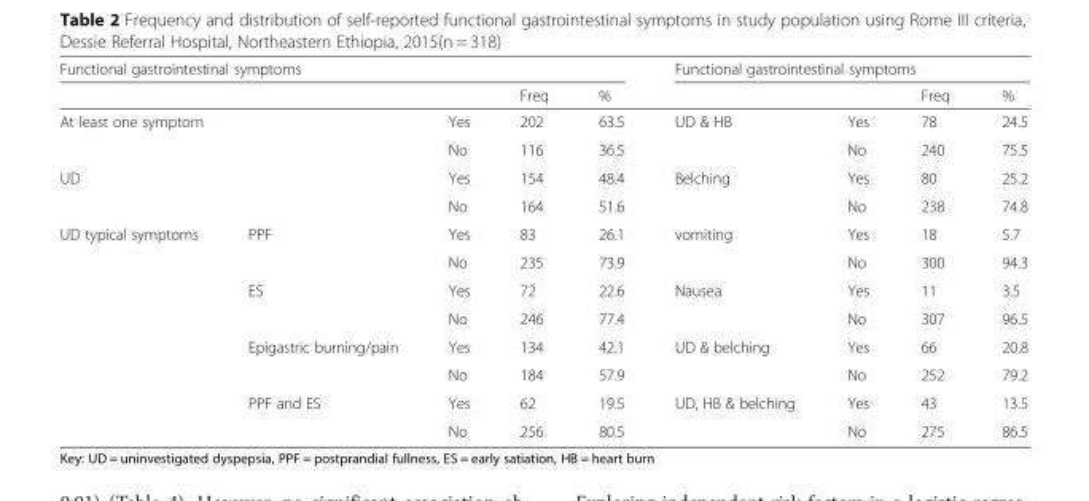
<table><thead><tr><td colspan="5">Functional gastrointestinal symptoms</td><td colspan="4">Functional gastrointestinal symptoms</td></tr><tr><td></td><td></td><td></td><td>Freq</td><td>%</td><td></td><td></td><td>Freq</td><td>%</td></tr></thead><tbody><tr><td rowspan="2" colspan="2">At least one symptom</td><td>Yes</td><td>202</td><td>63.5</td><td rowspan="2">UD &amp; HB</td><td>Yes</td><td>78</td><td>24.5</td></tr><tr><td>No</td><td>116</td><td>36.5</td><td>No</td><td>240</td><td>75.5</td></tr><tr><td rowspan="2" colspan="2">UD</td><td>Yes</td><td>154</td><td>48.4</td><td rowspan="2">Belching</td><td>Yes</td><td>80</td><td>25.2</td></tr><tr><td>No</td><td>164</td><td>51.6</td><td>No</td><td>238</td><td>74.8</td></tr><tr><td rowspan="8">UD typical symptoms</td><td rowspan="2">PPF</td><td>Yes</td><td>83</td><td>26.1</td><td rowspan="2">vomiting</td><td>Yes</td><td>18</td><td>5.7</td></tr><tr><td>No</td><td>235</td><td>73.9</td><td>No</td><td>300</td><td>94.3</td></tr><tr><td rowspan="2">ES</td><td>Yes</td><td>72</td><td>22.6</td><td rowspan="2">Nausea</td><td>Yes</td><td>11</td><td>3.5</td></tr><tr><td>No</td><td>246</td><td>77.4</td><td>No</td><td>307</td><td>96.5</td></tr><tr><td rowspan="2">Epigastric burning/pain</td><td>Yes</td><td>134</td><td>42.1</td><td rowspan="2">UD &amp; belching</td><td>Yes</td><td>66</td><td>20.8</td></tr><tr><td>No</td><td>184</td><td>57.9</td><td>No</td><td>252</td><td>79.2</td></tr><tr><td rowspan="2">PPF and ES</td><td>Yes</td><td>62</td><td>19.5</td><td rowspan="2">UD, HB &amp; belching</td><td>Yes</td><td>43</td><td>13.5</td></tr><tr><td>No</td><td>256</td><td>80.5</td><td>No</td><td>275</td><td>86.5</td></tr></tbody></table>